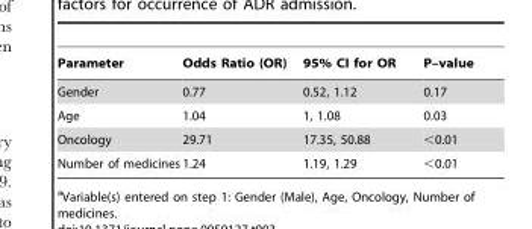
<table><thead><tr><td>Parameter</td><td>Odds Ratio (OR)</td><td>95% CI for OR</td><td>P–value</td></tr></thead><tbody><tr><td>Gender</td><td>0.77</td><td>0.52, 1.12</td><td>0.17</td></tr><tr><td>Age</td><td>1.04</td><td>1, 1.08</td><td>0.03</td></tr><tr><td>Oncology</td><td>29.71</td><td>17.35, 50.88</td><td>&lt;0.01</td></tr><tr><td>Number of medicines</td><td>1.24</td><td>1.19, 1.29</td><td>&lt;0.01</td></tr></tbody></table>